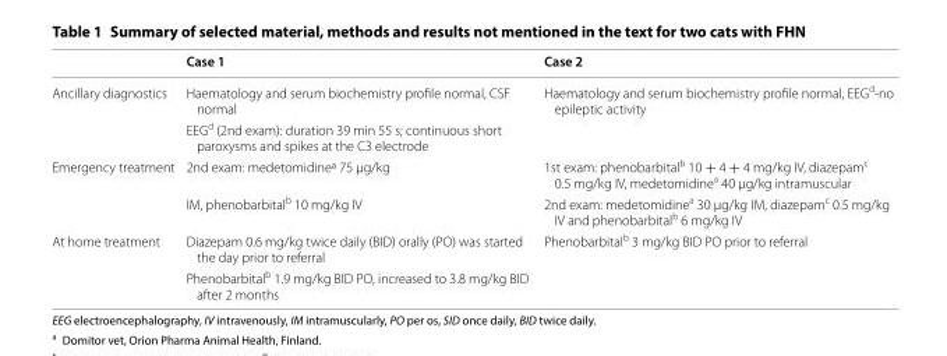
<table><thead><tr><td></td><td>Case 1</td><td>Case 2</td></tr></thead><tbody><tr><td rowspan="2">Ancillary diagnostics</td><td>Haematology and serum biochemistry profile normal, CSF normal</td><td rowspan="2">Haematology and serum biochemistry profile normal, EEG<sup>d</sup>-no epileptic activity</td></tr><tr><td>EEG<sup>d</sup> (2nd exam): duration 39 min 55 s; continuous short paroxysms and spikes at the C3 electrode</td></tr><tr><td rowspan="2">Emergency treatment</td><td>2nd exam: medetomidineª 75 µg/kg</td><td>1st exam: phenobarbital<sup>b</sup> 10 + 4 + 4 mg/kg IV, diazepam<sup>c</sup> 0.5 mg/kg IV, medetomidine<sup>a</sup> 40 µg/kg intramuscular</td></tr><tr><td>IM, phenobarbital<sup>b</sup> 10 mg/kg IV</td><td>2nd exam: medetomidine<sup>a</sup> 30 µg/kg IM, diazepam<sup>c</sup> 0.5 mg/kg IV and phenobarbital<sup>b</sup> 6 mg/kg IV</td></tr><tr><td rowspan="2">At home treatment</td><td>Diazepam 0.6 mg/kg twice daily (BID) orally (PO) was started the day prior to referral</td><td rowspan="2">Phenobarbital<sup>b</sup> 3 mg/kg BID PO prior to referral</td></tr><tr><td>Phenobarbital<sup>b</sup> 1.9 mg/kg BID PO, increased to 3.8 mg/kg BID after 2 months</td></tr></tbody></table>